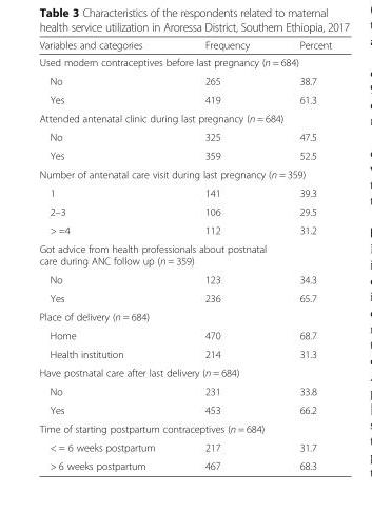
<table><thead><tr><td>Variables and categories</td><td>Frequency</td><td>Percent</td></tr></thead><tbody><tr><td colspan="3">Used modern contraceptives before last pregnancy (n = 684)</td></tr><tr><td>No</td><td>265</td><td>38.7</td></tr><tr><td>Yes</td><td>419</td><td>61.3</td></tr><tr><td colspan="3">Attended antenatal clinic during last pregnancy (n = 684)</td></tr><tr><td>No</td><td>325</td><td>47.5</td></tr><tr><td>Yes</td><td>359</td><td>52.5</td></tr><tr><td colspan="3">Number of antenatal care visit during last pregnancy (n = 359)</td></tr><tr><td>1</td><td>141</td><td>39.3</td></tr><tr><td>2–3</td><td>106</td><td>29.5</td></tr><tr><td>&gt; =4</td><td>112</td><td>31.2</td></tr><tr><td colspan="3">Got advice from health professionals about postnatal care during ANC follow up (n = 359)</td></tr><tr><td>No</td><td>123</td><td>34.3</td></tr><tr><td>Yes</td><td>236</td><td>65.7</td></tr><tr><td colspan="3">Place of delivery (n = 684)</td></tr><tr><td>Home</td><td>470</td><td>68.7</td></tr><tr><td>Health institution</td><td>214</td><td>31.3</td></tr><tr><td colspan="3">Have postnatal care after last delivery (n = 684)</td></tr><tr><td>No</td><td>231</td><td>33.8</td></tr><tr><td>Yes</td><td>453</td><td>66.2</td></tr><tr><td colspan="3">Time of starting postpartum contraceptives (n = 684)</td></tr><tr><td>&lt; = 6 weeks postpartum</td><td>217</td><td>31.7</td></tr><tr><td>&gt; 6 weeks postpartum</td><td>467</td><td>68.3</td></tr></tbody></table>